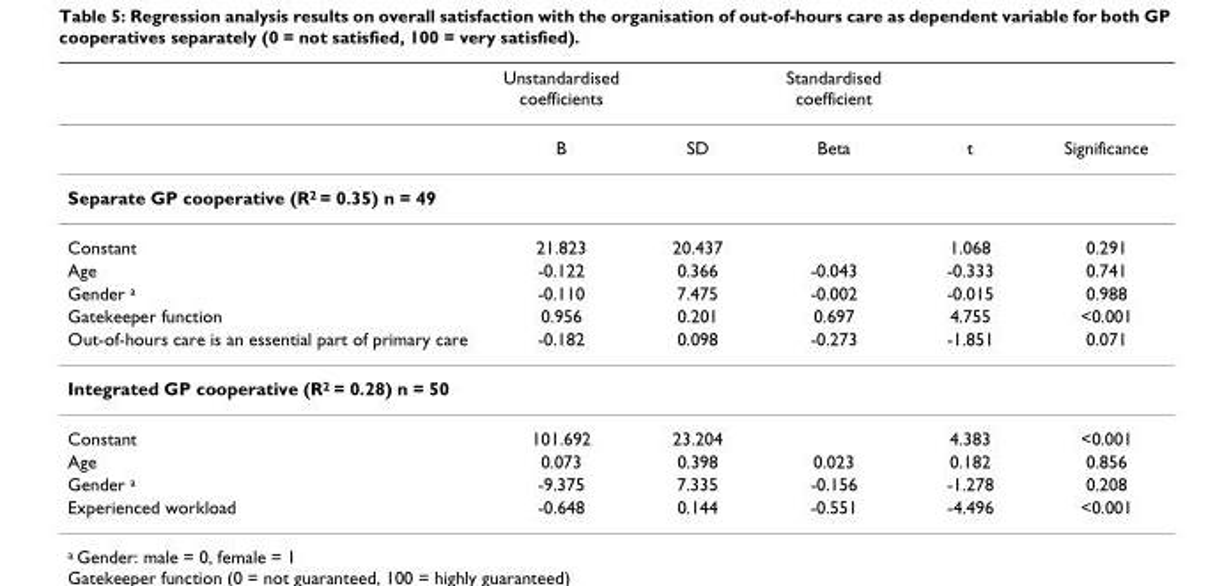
<table><thead><tr><td></td><td>Unstandardised coefficients</td><td></td><td>Standardised coefficient</td><td></td><td></td></tr></thead><tbody><tr><td></td><td>B</td><td>SD</td><td>Beta</td><td>t</td><td>Significance</td></tr><tr><td colspan="6">Separate GP cooperative (R<sup>2</sup> = 0.35) n = 49</td></tr><tr><td>Constant</td><td>21.823</td><td>20.437</td><td></td><td>1.068</td><td>0.291</td></tr><tr><td>Age</td><td>-0.122</td><td>0.366</td><td>-0.043</td><td>-0.333</td><td>0.741</td></tr><tr><td>Gender <sup>a</sup></td><td>-0.110</td><td>7.475</td><td>-0.002</td><td>-0.015</td><td>0.988</td></tr><tr><td>Gatekeeper function</td><td>0.956</td><td>0.201</td><td>0.697</td><td>4.755</td><td>&lt;0.001</td></tr><tr><td>Out-of-hours care is an essential part of primary care</td><td>-0.182</td><td>0.098</td><td>-0.273</td><td>-1.851</td><td>0.071</td></tr><tr><td colspan="6">Integrated GP cooperative (R<sup>2</sup> = 0.28) n = 50</td></tr><tr><td>Constant</td><td>101.692</td><td>23.204</td><td></td><td>4.383</td><td>&lt;0.001</td></tr><tr><td>Age</td><td>0.073</td><td>0.398</td><td>0.023</td><td>0.182</td><td>0.856</td></tr><tr><td>Gender <sup>a</sup></td><td>-9.375</td><td>7.335</td><td>-0.156</td><td>-1.278</td><td>0.208</td></tr><tr><td>Experienced workload</td><td>-0.648</td><td>0.144</td><td>-0.551</td><td>-4.496</td><td>&lt;0.001</td></tr></tbody></table>